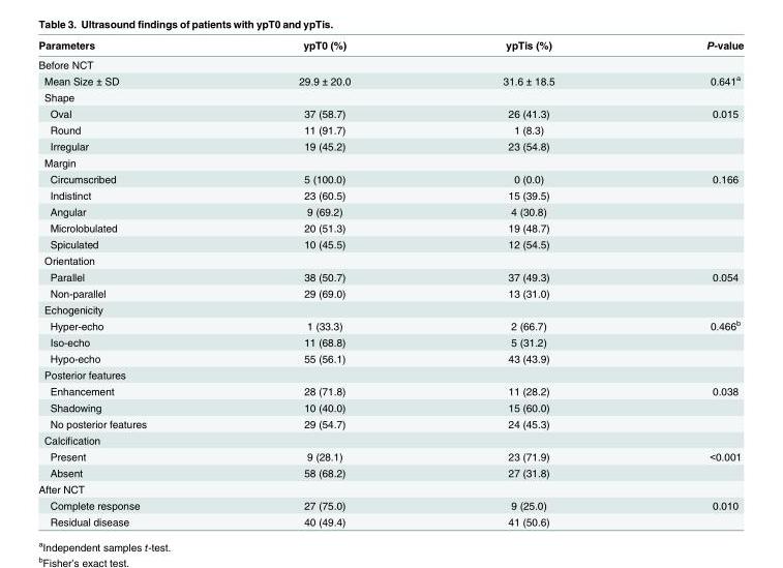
<table><thead><tr><td>Parameters</td><td>ypT0 (%)</td><td>ypTis (%)</td><td>P-value</td></tr></thead><tbody><tr><td colspan="4">Before NCT</td></tr><tr><td>Mean Size ± SD</td><td>29.9 ± 20.0</td><td>31.6 ± 18.5</td><td>0.641<sup>a</sup></td></tr><tr><td colspan="4">Shape</td></tr><tr><td>Oval</td><td>37 (58.7)</td><td>26 (41.3)</td><td>0.015</td></tr><tr><td>Round</td><td>11 (91.7)</td><td>1 (8.3)</td><td></td></tr><tr><td>Irregular</td><td>19 (45.2)</td><td>23 (54.8)</td><td></td></tr><tr><td colspan="4">Margin</td></tr><tr><td>Circumscribed</td><td>5 (100.0)</td><td>0 (0.0)</td><td>0.166</td></tr><tr><td>Indistinct</td><td>23 (60.5)</td><td>15 (39.5)</td><td></td></tr><tr><td>Angular</td><td>9 (69.2)</td><td>4 (30.8)</td><td></td></tr><tr><td>Microlobulated</td><td>20 (51.3)</td><td>19 (48.7)</td><td></td></tr><tr><td>Spiculated</td><td>10 (45.5)</td><td>12 (54.5)</td><td></td></tr><tr><td colspan="4">Orientation</td></tr><tr><td>Parallel</td><td>38 (50.7)</td><td>37 (49.3)</td><td>0.054</td></tr><tr><td>Non-parallel</td><td>29 (69.0)</td><td>13 (31.0)</td><td></td></tr><tr><td colspan="4">Echogenicity</td></tr><tr><td>Hyper-echo</td><td>1 (33.3)</td><td>2 (66.7)</td><td>0.466<sup>b</sup></td></tr><tr><td>Iso-echo</td><td>11 (68.8)</td><td>5 (31.2)</td><td></td></tr><tr><td>Hypo-echo</td><td>55 (56.1)</td><td>43 (43.9)</td><td></td></tr><tr><td colspan="4">Posterior features</td></tr><tr><td>Enhancement</td><td>28 (71.8)</td><td>11 (28.2)</td><td>0.038</td></tr><tr><td>Shadowing</td><td>10 (40.0)</td><td>15 (60.0)</td><td></td></tr><tr><td>No posterior features</td><td>29 (54.7)</td><td>24 (45.3)</td><td></td></tr><tr><td colspan="4">Calcification</td></tr><tr><td>Present</td><td>9 (28.1)</td><td>23 (71.9)</td><td>&lt;0.001</td></tr><tr><td>Absent</td><td>58 (68.2)</td><td>27 (31.8)</td><td></td></tr><tr><td colspan="4">After NCT</td></tr><tr><td>Complete response</td><td>27 (75.0)</td><td>9 (25.0)</td><td>0.010</td></tr><tr><td>Residual disease</td><td>40 (49.4)</td><td>41 (50.6)</td><td></td></tr></tbody></table>